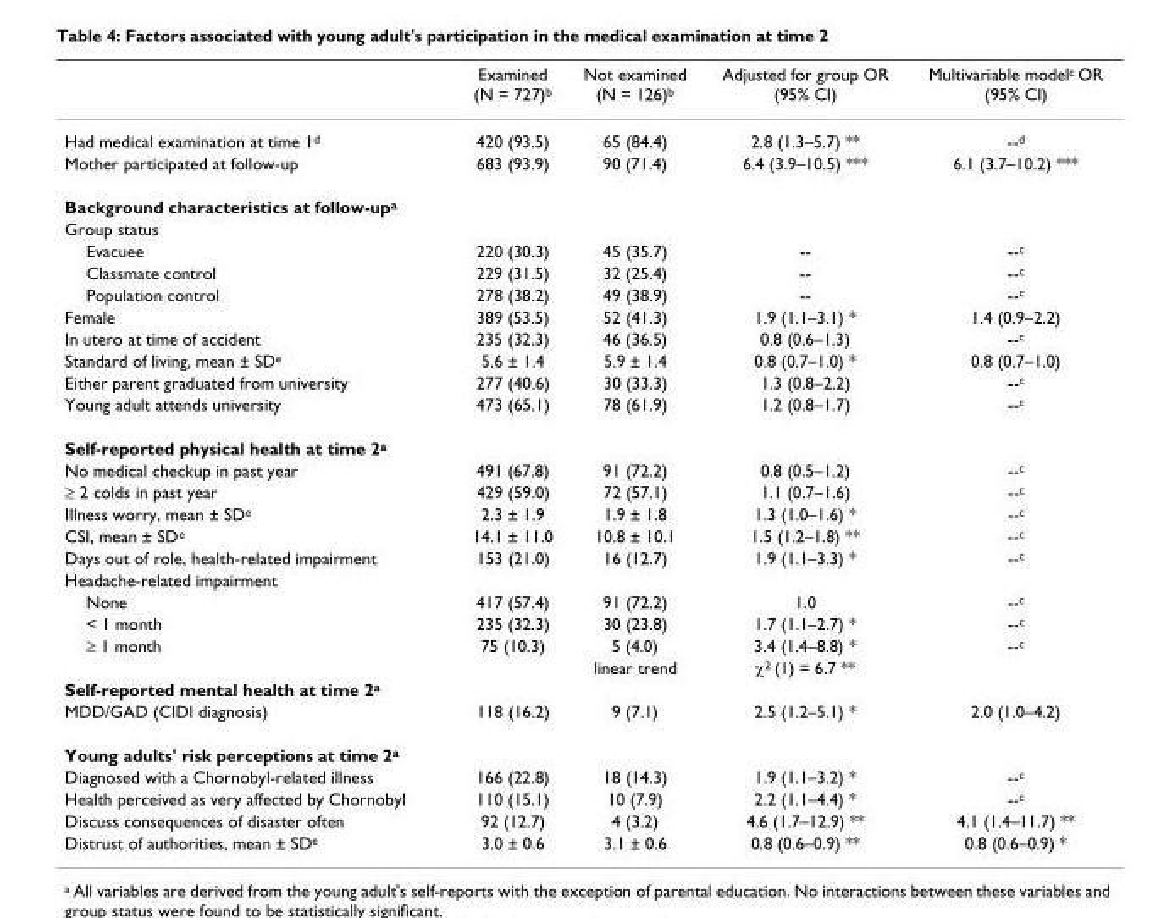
<table><thead><tr><td></td><td>Examined (N = 727)<sup>b</sup></td><td>Not examined (N = 126)<sup>b</sup></td><td>Adjusted for group OR (95% CI)</td><td>Multivariable model<sup>c</sup> OR (95% CI)</td></tr></thead><tbody><tr><td>Had medical examination at time 1<sup>d</sup></td><td>420 (93.5)</td><td>65 (84.4)</td><td>2.8 (1.3–5.7) **</td><td>--<sup>d</sup></td></tr><tr><td>Mother participated at follow-up</td><td>683 (93.9)</td><td>90 (71.4)</td><td>6.4 (3.9–10.5) ***</td><td>6.1 (3.7–10.2) ***</td></tr><tr><td colspan="5">Background characteristics at follow-up<sup>a</sup></td></tr><tr><td colspan="5">Group status</td></tr><tr><td>Evacuee</td><td>220 (30.3)</td><td>45 (35.7)</td><td>--</td><td>--<sup>c</sup></td></tr><tr><td>Classmate control</td><td>229 (31.5)</td><td>32 (25.4)</td><td>--</td><td>--<sup>c</sup></td></tr><tr><td>Population control</td><td>278 (38.2)</td><td>49 (38.9)</td><td>--</td><td>--<sup>c</sup></td></tr><tr><td>Female</td><td>389 (53.5)</td><td>52 (41.3)</td><td>1.9 (1.1–3.1) *</td><td>1.4 (0.9–2.2)</td></tr><tr><td>In utero at time of accident</td><td>235 (32.3)</td><td>46 (36.5)</td><td>0.8 (0.6–1.3)</td><td>--<sup>c</sup></td></tr><tr><td>Standard of living, mean ± SD<sup>e</sup></td><td>5.6 ± 1.4</td><td>5.9 ± 1.4</td><td>0.8 (0.7–1.0) *</td><td>0.8 (0.7–1.0)</td></tr><tr><td>Either parent graduated from university</td><td>277 (40.6)</td><td>30 (33.3)</td><td>1.3 (0.8–2.2)</td><td>--<sup>c</sup></td></tr><tr><td>Young adult attends university</td><td>473 (65.1)</td><td>78 (61.9)</td><td>1.2 (0.8–1.7)</td><td>--<sup>c</sup></td></tr><tr><td colspan="5">Self-reported physical health at time 2<sup>a</sup></td></tr><tr><td>No medical checkup in past year</td><td>491 (67.8)</td><td>91 (72.2)</td><td>0.8 (0.5–1.2)</td><td>--<sup>c</sup></td></tr><tr><td>≥ 2 colds in past year</td><td>429 (59.0)</td><td>72 (57.1)</td><td>1.1 (0.7–1.6)</td><td>--<sup>c</sup></td></tr><tr><td>Illness worry, mean ± SD<sup>e</sup></td><td>2.3 ± 1.9</td><td>1.9 ± 1.8</td><td>1.3 (1.0–1.6) *</td><td>--<sup>c</sup></td></tr><tr><td>CSI, mean ± SD<sup>e</sup></td><td>14.1 ± 11.0</td><td>10.8 ± 10.1</td><td>1.5 (1.2–1.8) **</td><td>--<sup>c</sup></td></tr><tr><td>Days out of role, health-related impairment</td><td>153 (21.0)</td><td>16 (12.7)</td><td>1.9 (1.1–3.3) *</td><td>--<sup>c</sup></td></tr><tr><td colspan="5">Headache-related impairment</td></tr><tr><td>None</td><td>417 (57.4)</td><td>91 (72.2)</td><td>1.0</td><td>--<sup>c</sup></td></tr><tr><td>&lt; 1 month</td><td>235 (32.3)</td><td>30 (23.8)</td><td>1.7 (1.1–2.7) *</td><td>--<sup>c</sup></td></tr><tr><td rowspan="2">≥ 1 month</td><td>75 (10.3)</td><td>5 (4.0)</td><td>3.4 (1.4–8.8) *</td><td>--<sup>c</sup></td></tr><tr><td></td><td>linear trend</td><td>χ<sup>2</sup> (1) = 6.7 **</td><td></td></tr><tr><td colspan="5">Self-reported mental health at time 2<sup>a</sup></td></tr><tr><td>MDD/GAD (CIDI diagnosis)</td><td>118 (16.2)</td><td>9 (7.1)</td><td>2.5 (1.2–5.1) *</td><td>2.0 (1.0–4.2)</td></tr><tr><td colspan="5">Young adults&#x27; risk perceptions at time 2<sup>a</sup></td></tr><tr><td>Diagnosed with a Chornobyl-related illness</td><td>166 (22.8)</td><td>18 (14.3)</td><td>1.9 (1.1–3.2) *</td><td>--<sup>c</sup></td></tr><tr><td>Health perceived as very affected by Chornobyl</td><td>110 (15.1)</td><td>10 (7.9)</td><td>2.2 (1.1–4.4) *</td><td>--<sup>c</sup></td></tr><tr><td>Discuss consequences of disaster often</td><td>92 (12.7)</td><td>4 (3.2)</td><td>4.6 (1.7–12.9) **</td><td>4.1 (1.4–11.7) **</td></tr><tr><td>Distrust of authorities, mean ± SD<sup>e</sup></td><td>3.0 ± 0.6</td><td>3.1 ± 0.6</td><td>0.8 (0.6–0.9) **</td><td>0.8 (0.6–0.9) *</td></tr></tbody></table>